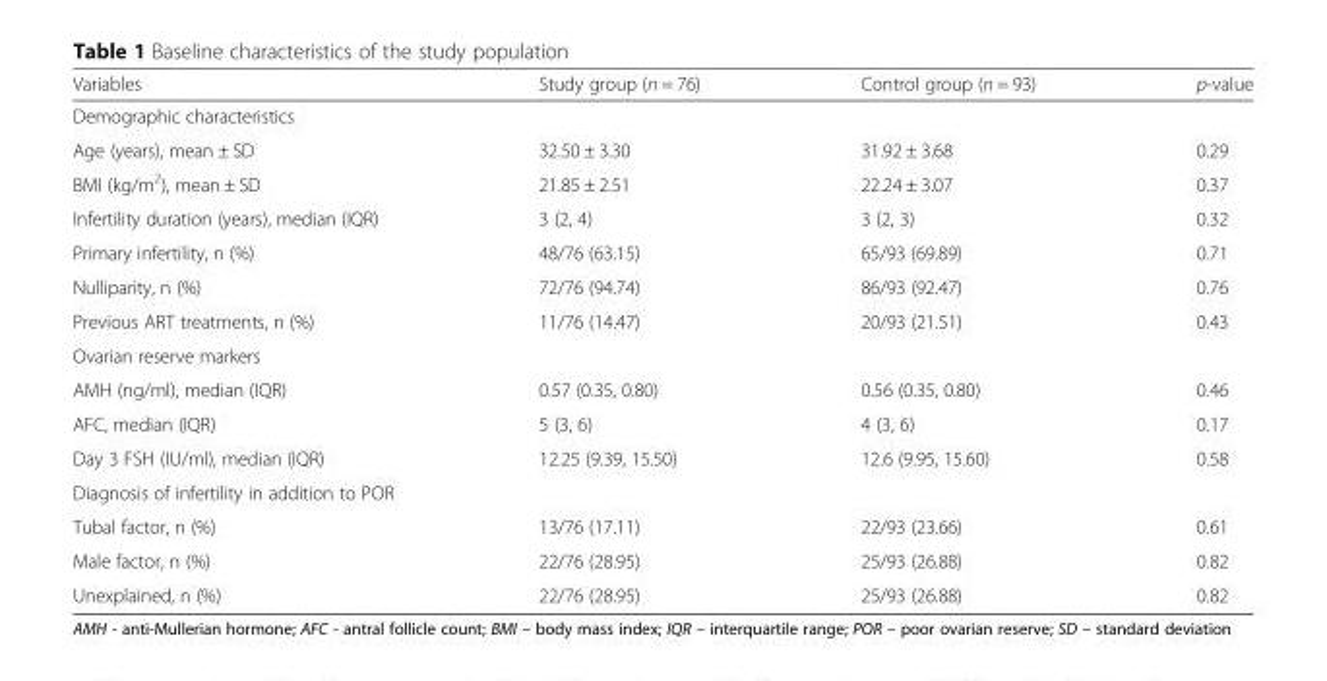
<table><thead><tr><td>Variables</td><td>Study group (n = 76)</td><td>Control group (n = 93)</td><td>p-value</td></tr></thead><tbody><tr><td colspan="4">Demographic characteristics</td></tr><tr><td>Age (years), mean ± SD</td><td>32.50 ± 3.30</td><td>31.92 ± 3.68</td><td>0.29</td></tr><tr><td>BMI (kg/m<sup>2</sup>), mean ± SD</td><td>21.85 ± 2.51</td><td>22.24 ± 3.07</td><td>0.37</td></tr><tr><td>Infertility duration (years), median (IQR)</td><td>3 (2, 4)</td><td>3 (2, 3)</td><td>0.32</td></tr><tr><td>Primary infertility, n (%)</td><td>48/76 (63.15)</td><td>65/93 (69.89)</td><td>0.71</td></tr><tr><td>Nulliparity, n (%)</td><td>72/76 (94.74)</td><td>86/93 (92.47)</td><td>0.76</td></tr><tr><td>Previous ART treatments, n (%)</td><td>11/76 (14.47)</td><td>20/93 (21.51)</td><td>0.43</td></tr><tr><td colspan="4">Ovarian reserve markers</td></tr><tr><td>AMH (ng/ml), median (IQR)</td><td>0.57 (0.35, 0.80)</td><td>0.56 (0.35, 0.80)</td><td>0.46</td></tr><tr><td>AFC, median (IQR)</td><td>5 (3, 6)</td><td>4 (3, 6)</td><td>0.17</td></tr><tr><td>Day 3 FSH (IU/ml), median (IQR)</td><td>12.25 (9.39, 15.50)</td><td>12.6 (9.95, 15.60)</td><td>0.58</td></tr><tr><td colspan="4">Diagnosis of infertility in addition to POR</td></tr><tr><td>Tubal factor, n (%)</td><td>13/76 (17.11)</td><td>22/93 (23.66)</td><td>0.61</td></tr><tr><td>Male factor, n (%)</td><td>22/76 (28.95)</td><td>25/93 (26.88)</td><td>0.82</td></tr><tr><td>Unexplained, n (%)</td><td>22/76 (28.95)</td><td>25/93 (26.88)</td><td>0.82</td></tr></tbody></table>